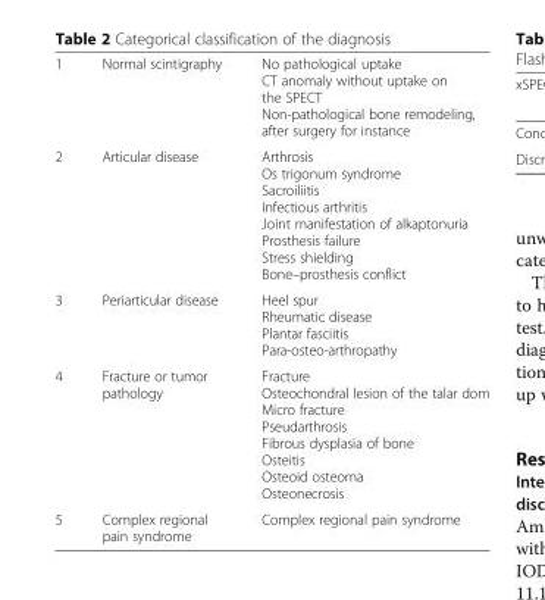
<table><tbody><tr><td>1</td><td>Normal scintigraphy</td><td>No pathological uptake CT anomaly without uptake on the SPECT Non-pathological bone remodeling, after surgery for instance</td></tr><tr><td>2</td><td>Articular disease</td><td>Arthrosis Os trigonum syndrome Sacroiliitis Infectious arthritis Joint manifestation of alkaptonuria Prosthesis failure Stress shielding Bone–prosthesis conflict</td></tr><tr><td>3</td><td>Periarticular disease</td><td>Heel spur Rheumatic disease Plantar fasciitis Para-osteo-arthropathy</td></tr><tr><td>4</td><td>Fracture or tumor pathology</td><td>Fracture Osteochondral lesion of the talar dom Micro fracture Pseudarthrosis Fibrous dysplasia of bone Osteitis Osteoid osteoma Osteonecrosis</td></tr><tr><td>5</td><td>Complex regional pain syndrome</td><td>Complex regional pain syndrome</td></tr></tbody></table>